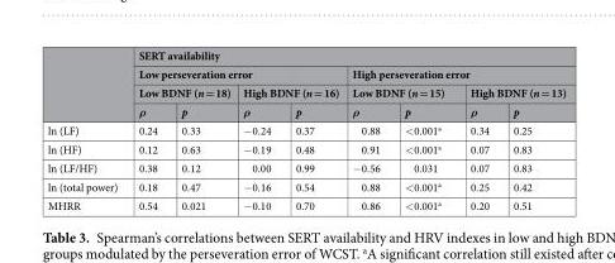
<table><thead><tr><td rowspan="4"></td><td colspan="8">SERT availability</td></tr><tr><td colspan="4">Low perseveration error</td><td colspan="4">High perseveration error</td></tr><tr><td colspan="2">Low BDNF (n = 18)</td><td colspan="2">High BDNF (n = 16)</td><td colspan="2">Low BDNF (n = 15)</td><td colspan="2">High BDNF (n = 13)</td></tr><tr><td>ρ</td><td>p</td><td>ρ</td><td>p</td><td>ρ</td><td>p</td><td>ρ</td><td>p</td></tr></thead><tbody><tr><td>ln (LF)</td><td>0.24</td><td>0.33</td><td>−0.24</td><td>0.37</td><td>0.88</td><td>&lt;0.001<sup>a</sup></td><td>0.34</td><td>0.25</td></tr><tr><td>ln (HF)</td><td>0.12</td><td>0.63</td><td>−0.19</td><td>0.48</td><td>0.91</td><td>&lt;0.001<sup>a</sup></td><td>0.07</td><td>0.83</td></tr><tr><td>ln (LF/HF)</td><td>0.38</td><td>0.12</td><td>0.00</td><td>0.99</td><td>−0.56</td><td>0.031</td><td>0.07</td><td>0.83</td></tr><tr><td>ln (total power)</td><td>0.18</td><td>0.47</td><td>−0.16</td><td>0.54</td><td>0.88</td><td>&lt;0.001<sup>a</sup></td><td>0.25</td><td>0.42</td></tr><tr><td>MHRR</td><td>0.54</td><td>0.021</td><td>−0.10</td><td>0.70</td><td>0.86</td><td>&lt;0.001<sup>a</sup></td><td>0.20</td><td>0.51</td></tr></tbody></table>